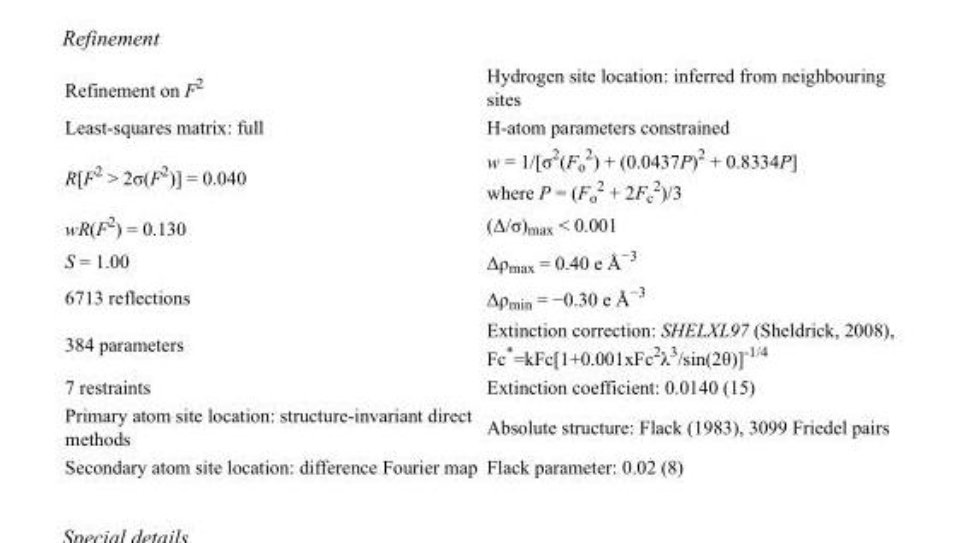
<table><tbody><tr><td>Refinement on F<sup>2</sup></td><td>Hydrogen site location: inferred from neighbouring sites</td></tr><tr><td>Least-squares matrix: full</td><td>H-atom parameters constrained</td></tr><tr><td>R[F<sup>2</sup> &gt; 2σ(F<sup>2</sup>)] = 0.040</td><td>w = 1/[σ<sup>2</sup>(F<sub>o</sub> <sup>2</sup>) + (0.0437P)<sup>2</sup> + 0.8334P] where P = (F<sub>o</sub> <sup>2</sup> + 2F<sub>c</sub> <sup>2</sup>)/3</td></tr><tr><td>wR(F<sup>2</sup>) = 0.130</td><td>(Δ/σ)<sub>max</sub> &lt; 0.001</td></tr><tr><td>S = 1.00</td><td>Δρ<sub>max</sub> = 0.40 e Å<sup>−3</sup></td></tr><tr><td>6713 reflections</td><td>Δρ<sub>min</sub> = −0.30 e Å<sup>−3</sup></td></tr><tr><td>384 parameters</td><td>Extinction correction: SHELXL97 (Sheldrick, 2008), Fc*=kFc[1+0.001xFc<sup>2</sup>λ<sup>3</sup>/sin(2θ)]<sup>-1/4</sup></td></tr><tr><td>7 restraints</td><td>Extinction coefficient: 0.0140 (15)</td></tr><tr><td>Primary atom site location: structure-invariant direct methods</td><td>Absolute structure: Flack (1983), 3099 Friedel pairs</td></tr><tr><td>Secondary atom site location: difference Fourier map</td><td>Flack parameter: 0.02 (8)</td></tr></tbody></table>